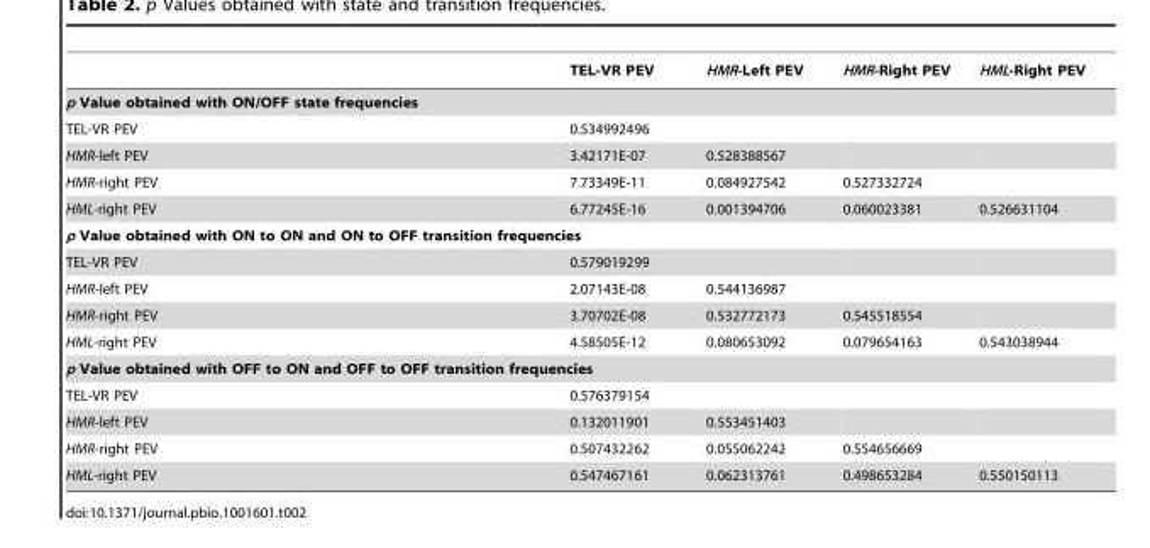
<table><thead><tr><td></td><td>TEL-VR PEV</td><td>HMR-Left PEV</td><td>HMR-Right PEV</td><td>HML-Right PEV</td></tr></thead><tbody><tr><td colspan="5">p Value obtained with ON/OFF state frequencies</td></tr><tr><td>TEL-VR PEV</td><td>0.534992496</td><td></td><td></td><td></td></tr><tr><td>HMR-left PEV</td><td>3.42171E-07</td><td>0.528388567</td><td></td><td></td></tr><tr><td>HMR-right PEV</td><td>7.73349E-11</td><td>0.084927542</td><td>0.527332724</td><td></td></tr><tr><td>HML-right PEV</td><td>6.77245E-16</td><td>0.001394706</td><td>0.060023381</td><td>0.526631104</td></tr><tr><td colspan="5">p Value obtained with ON to ON and ON to OFF transition frequencies</td></tr><tr><td>TEL-VR PEV</td><td>0.579019299</td><td></td><td></td><td></td></tr><tr><td>HMR-left PEV</td><td>2.07143E-08</td><td>0.544136987</td><td></td><td></td></tr><tr><td>HMR-right PEV</td><td>3.70702E-08</td><td>0.532772173</td><td>0.545518554</td><td></td></tr><tr><td>HML-right PEV</td><td>4.58505E-12</td><td>0.080653092</td><td>0.079654163</td><td>0.543038944</td></tr><tr><td colspan="5">p Value obtained with OFF to ON and OFF to OFF transition frequencies</td></tr><tr><td>TEL-VR PEV</td><td>0.576379154</td><td></td><td></td><td></td></tr><tr><td>HMR-left PEV</td><td>0.132011901</td><td>0.553451403</td><td></td><td></td></tr><tr><td>HMR-right PEV</td><td>0.507432262</td><td>0.055062242</td><td>0.554656669</td><td></td></tr><tr><td>HML-right PEV</td><td>0.547467161</td><td>0.062313761</td><td>0.498653284</td><td>0.550150113</td></tr></tbody></table>